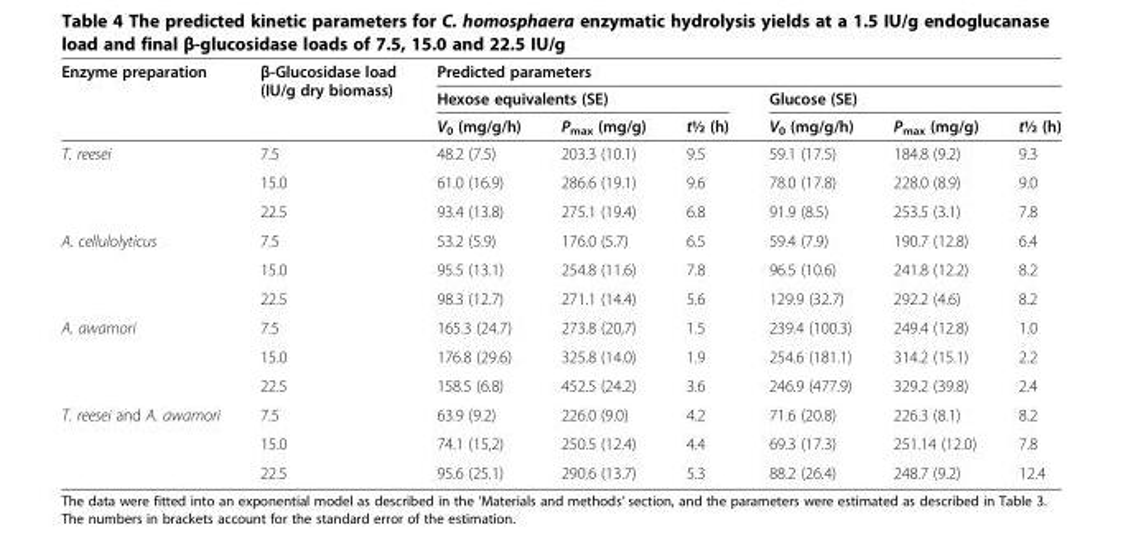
<table><thead><tr><td rowspan="3">Enzyme preparation</td><td rowspan="3">β-Glucosidase load (IU/g dry biomass)</td><td colspan="6">Predicted parameters</td></tr><tr><td colspan="3">Hexose equivalents (SE)</td><td colspan="3">Glucose (SE)</td></tr><tr><td>V<sub>0</sub> (mg/g/h)</td><td>P<sub>max</sub> (mg/g)</td><td>t½ (h)</td><td>V<sub>0</sub> (mg/g/h)</td><td>P<sub>max</sub> (mg/g)</td><td>t½ (h)</td></tr></thead><tbody><tr><td rowspan="3">T. reesei</td><td>7.5</td><td>48.2 (7.5)</td><td>203.3 (10.1)</td><td>9.5</td><td>59.1 (17.5)</td><td>184.8 (9.2)</td><td>9.3</td></tr><tr><td>15.0</td><td>61.0 (16.9)</td><td>286.6 (19.1)</td><td>9.6</td><td>78.0 (17.8)</td><td>228.0 (8.9)</td><td>9.0</td></tr><tr><td>22.5</td><td>93.4 (13.8)</td><td>275.1 (19.4)</td><td>6.8</td><td>91.9 (8.5)</td><td>253.5 (3.1)</td><td>7.8</td></tr><tr><td rowspan="3">A. cellulolyticus</td><td>7.5</td><td>53.2 (5.9)</td><td>176.0 (5.7)</td><td>6.5</td><td>59.4 (7.9)</td><td>190.7 (12.8)</td><td>6.4</td></tr><tr><td>15.0</td><td>95.5 (13.1)</td><td>254.8 (11.6)</td><td>7.8</td><td>96.5 (10.6)</td><td>241.8 (12.2)</td><td>8.2</td></tr><tr><td>22.5</td><td>98.3 (12.7)</td><td>271.1 (14.4)</td><td>5.6</td><td>129.9 (32.7)</td><td>292.2 (4.6)</td><td>8.2</td></tr><tr><td rowspan="3">A. awamori</td><td>7.5</td><td>165.3 (24.7)</td><td>273.8 (20,7)</td><td>1.5</td><td>239.4 (100.3)</td><td>249.4 (12.8)</td><td>1.0</td></tr><tr><td>15.0</td><td>176.8 (29.6)</td><td>325.8 (14.0)</td><td>1.9</td><td>254.6 (181.1)</td><td>314.2 (15.1)</td><td>2.2</td></tr><tr><td>22.5</td><td>158.5 (6.8)</td><td>452.5 (24.2)</td><td>3.6</td><td>246.9 (477.9)</td><td>329.2 (39.8)</td><td>2.4</td></tr><tr><td rowspan="3">T. reesei and A. awamori</td><td>7.5</td><td>63.9 (9.2)</td><td>226.0 (9.0)</td><td>4.2</td><td>71.6 (20.8)</td><td>226.3 (8.1)</td><td>8.2</td></tr><tr><td>15.0</td><td>74.1 (15,2)</td><td>250.5 (12.4)</td><td>4.4</td><td>69.3 (17.3)</td><td>251.14 (12.0)</td><td>7.8</td></tr><tr><td>22.5</td><td>95.6 (25.1)</td><td>290.6 (13.7)</td><td>5.3</td><td>88.2 (26.4)</td><td>248.7 (9.2)</td><td>12.4</td></tr></tbody></table>